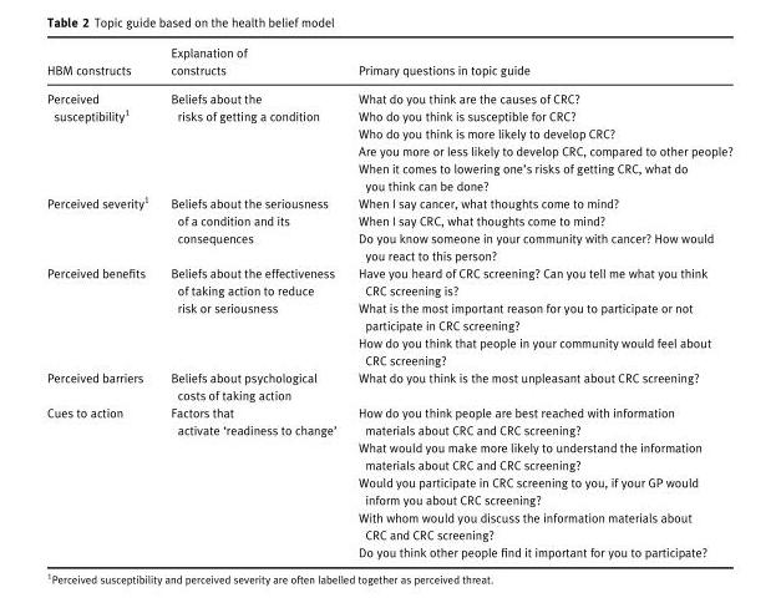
<table><thead><tr><td>HBM constructs</td><td>Explanation of constructs</td><td>Primary questions in topic guide</td></tr></thead><tbody><tr><td rowspan="5">Perceived susceptibility1</td><td rowspan="5">Beliefs about the risks of getting a condition</td><td>What do you think are the causes of CRC?</td></tr><tr><td>Who do you think is susceptible for CRC?</td></tr><tr><td>Who do you think is more likely to develop CRC?</td></tr><tr><td>Are you more or less likely to develop CRC, compared to other people?</td></tr><tr><td>When it comes to lowering one’s risks of getting CRC, what do you think can be done?</td></tr><tr><td rowspan="3">Perceived severity1</td><td rowspan="3">Beliefs about the seriousness of a condition and its consequences</td><td>When I say cancer, what thoughts come to mind?</td></tr><tr><td>When I say CRC, what thoughts come to mind?</td></tr><tr><td>Do you know someone in your community with cancer? How would you react to this person?</td></tr><tr><td rowspan="3">Perceived benefits</td><td rowspan="3">Beliefs about the effectiveness of taking action to reduce risk or seriousness</td><td>Have you heard of CRC screening? Can you tell me what you think CRC screening is?</td></tr><tr><td>What is the most important reason for you to participate or not participate in CRC screening?</td></tr><tr><td>How do you think that people in your community would feel about CRC screening?</td></tr><tr><td>Perceived barriers</td><td>Beliefs about psychological costs of taking action</td><td>What do you think is the most unpleasant about CRC screening?</td></tr><tr><td rowspan="5">Cues to action</td><td rowspan="5">Factors that activate ‘readiness to change’</td><td>How do you think people are best reached with information materials about CRC and CRC screening?</td></tr><tr><td>What would you make more likely to understand the information materials about CRC and CRC screening?</td></tr><tr><td>Would you participate in CRC screening to you, if your GP would inform you about CRC screening?</td></tr><tr><td>With whom would you discuss the information materials about CRC and CRC screening?</td></tr><tr><td>Do you think other people find it important for you to participate?</td></tr></tbody></table>